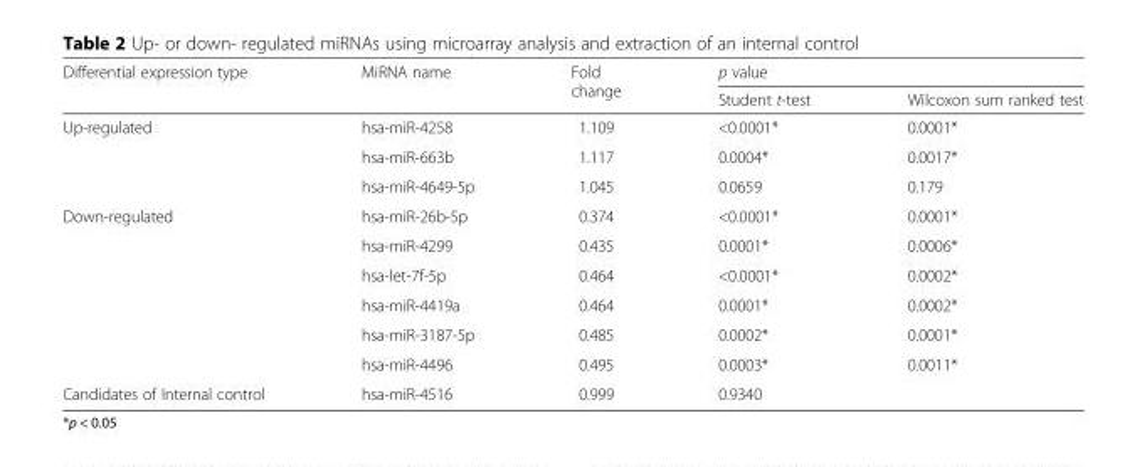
<table><thead><tr><td rowspan="2">Differential expression type</td><td rowspan="2">MiRNA name</td><td rowspan="2">Fold change</td><td colspan="2">p value</td></tr><tr><td>Student t-test</td><td>Wilcoxon sum ranked test</td></tr></thead><tbody><tr><td rowspan="3">Up-regulated</td><td>hsa-miR-4258</td><td>1.109</td><td>&lt;0.0001*</td><td>0.0001*</td></tr><tr><td>hsa-miR-663b</td><td>1.117</td><td>0.0004*</td><td>0.0017*</td></tr><tr><td>hsa-miR-4649-5p</td><td>1.045</td><td>0.0659</td><td>0.179</td></tr><tr><td rowspan="6">Down-regulated</td><td>hsa-miR-26b-5p</td><td>0.374</td><td>&lt;0.0001*</td><td>0.0001*</td></tr><tr><td>hsa-miR-4299</td><td>0.435</td><td>0.0001*</td><td>0.0006*</td></tr><tr><td>hsa-let-7f-5p</td><td>0.464</td><td>&lt;0.0001*</td><td>0.0002*</td></tr><tr><td>hsa-miR-4419a</td><td>0.464</td><td>0.0001*</td><td>0.0002*</td></tr><tr><td>hsa-miR-3187-5p</td><td>0.485</td><td>0.0002*</td><td>0.0001*</td></tr><tr><td>hsa-miR-4496</td><td>0.495</td><td>0.0003*</td><td>0.0011*</td></tr><tr><td>Candidates of Internal control</td><td>hsa-miR-4516</td><td>0.999</td><td>0.9340</td><td></td></tr></tbody></table>